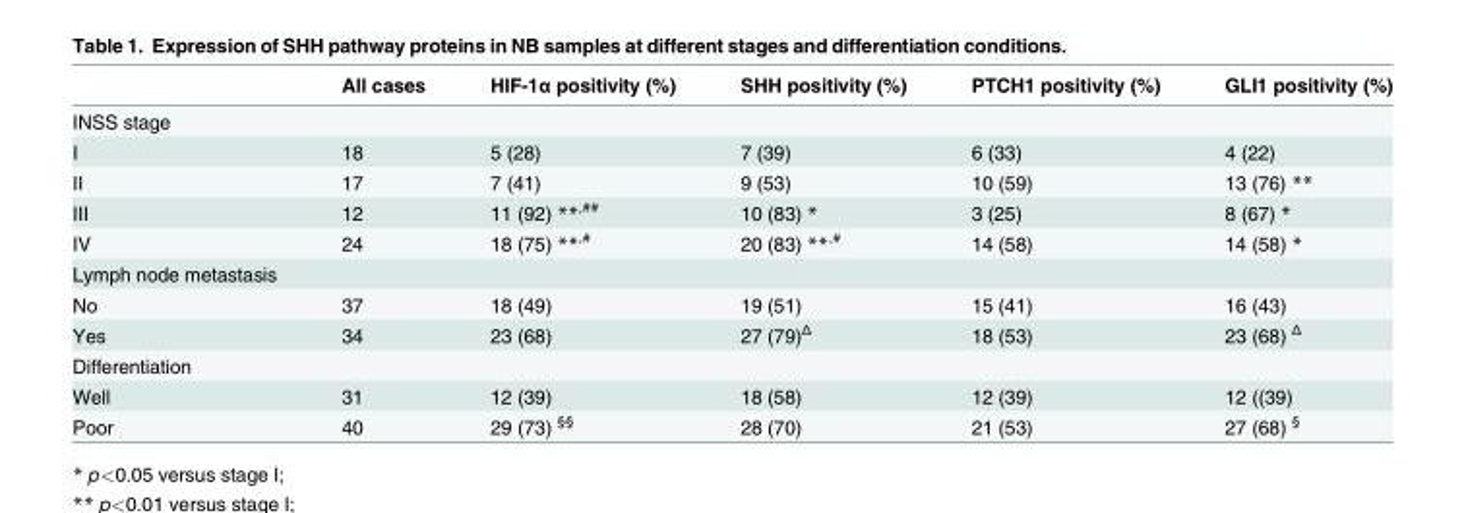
<table><thead><tr><td></td><td>All cases</td><td>HIF-1α positivity (%)</td><td>SHH positivity (%)</td><td>PTCH1 positivity (%)</td><td>GLI1 positivity (%)</td></tr></thead><tbody><tr><td colspan="6">INSS stage</td></tr><tr><td>I</td><td>18</td><td>5 (28)</td><td>7 (39)</td><td>6 (33)</td><td>4 (22)</td></tr><tr><td>II</td><td>17</td><td>7 (41)</td><td>9 (53)</td><td>10 (59)</td><td>13 (76) **</td></tr><tr><td>III</td><td>12</td><td>11 (92) **<sup>,##</sup></td><td>10 (83) *</td><td>3 (25)</td><td>8 (67) *</td></tr><tr><td>IV</td><td>24</td><td>18 (75) **<sup>,#</sup></td><td>20 (83) **<sup>,#</sup></td><td>14 (58)</td><td>14 (58) *</td></tr><tr><td colspan="6">Lymph node metastasis</td></tr><tr><td>No</td><td>37</td><td>18 (49)</td><td>19 (51)</td><td>15 (41)</td><td>16 (43)</td></tr><tr><td>Yes</td><td>34</td><td>23 (68)</td><td>27 (79)<sup>Δ</sup></td><td>18 (53)</td><td>23 (68) <sup>Δ</sup></td></tr><tr><td colspan="6">Differentiation</td></tr><tr><td>Well</td><td>31</td><td>12 (39)</td><td>18 (58)</td><td>12 (39)</td><td>12 ((39)</td></tr><tr><td>Poor</td><td>40</td><td>29 (73) <sup>§§</sup></td><td>28 (70)</td><td>21 (53)</td><td>27 (68) <sup>§</sup></td></tr></tbody></table>